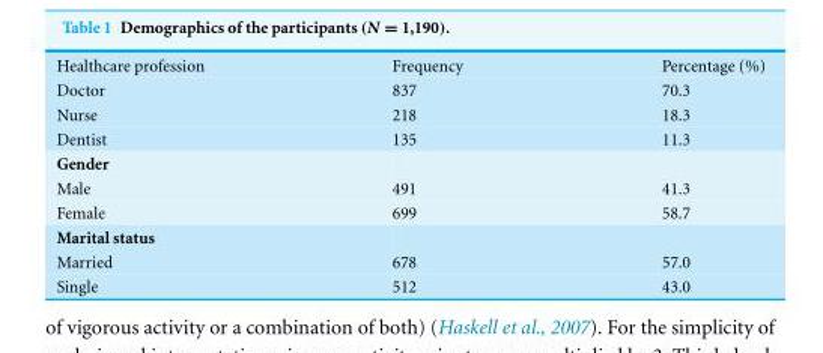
<table><tbody><tr><td>Healthcare profession</td><td>Frequency</td><td>Percentage (%)</td></tr><tr><td>Doctor</td><td>837</td><td>70.3</td></tr><tr><td>Nurse</td><td>218</td><td>18.3</td></tr><tr><td>Dentist</td><td>135</td><td>11.3</td></tr><tr><td colspan="3">Gender</td></tr><tr><td>Male</td><td>491</td><td>41.3</td></tr><tr><td>Female</td><td>699</td><td>58.7</td></tr><tr><td colspan="3">Marital status</td></tr><tr><td>Married</td><td>678</td><td>57.0</td></tr><tr><td>Single</td><td>512</td><td>43.0</td></tr></tbody></table>